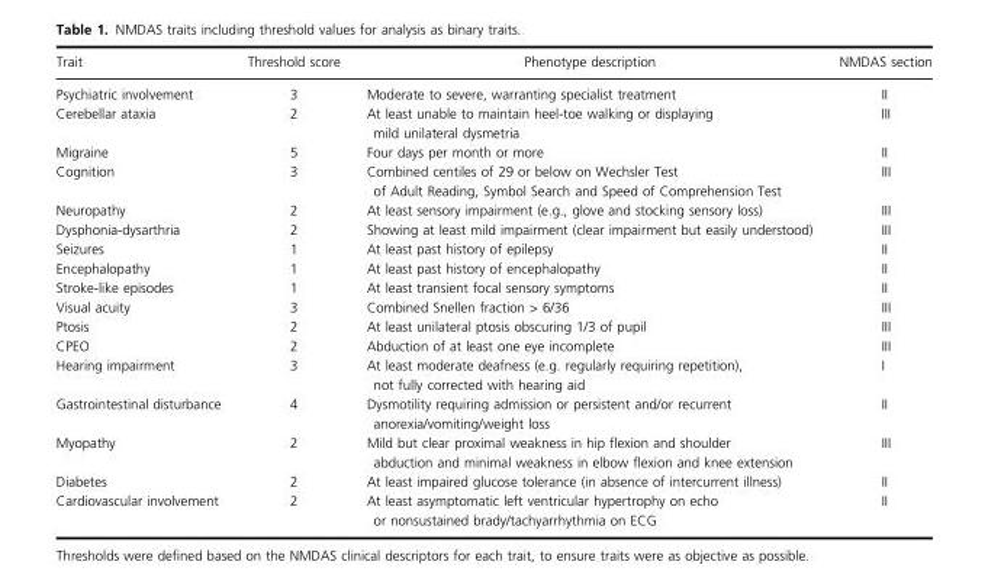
<table><thead><tr><td>Trait</td><td>Threshold score</td><td>Phenotype description</td><td>NMDAS section</td></tr></thead><tbody><tr><td>Psychiatric involvement</td><td>3</td><td>Moderate to severe, warranting specialist treatment</td><td>II</td></tr><tr><td>Cerebellar ataxia</td><td>2</td><td>At least unable to maintain heel-toe walking or displaying mild unilateral dysmetria</td><td>III</td></tr><tr><td>Migraine</td><td>5</td><td>Four days per month or more</td><td>II</td></tr><tr><td>Cognition</td><td>3</td><td>Combined centiles of 29 or below on Wechsler Test of Adult Reading, Symbol Search and Speed of Comprehension Test</td><td>III</td></tr><tr><td>Neuropathy</td><td>2</td><td>At least sensory impairment (e.g., glove and stocking sensory loss)</td><td>III</td></tr><tr><td>Dysphonia-dysarthria</td><td>2</td><td>Showing at least mild impairment (clear impairment but easily understood)</td><td>III</td></tr><tr><td>Seizures</td><td>1</td><td>At least past history of epilepsy</td><td>II</td></tr><tr><td>Encephalopathy</td><td>1</td><td>At least past history of encephalopathy</td><td>II</td></tr><tr><td>Stroke-like episodes</td><td>1</td><td>At least transient focal sensory symptoms</td><td>II</td></tr><tr><td>Visual acuity</td><td>3</td><td>Combined Snellen fraction &gt; 6/36</td><td>III</td></tr><tr><td>Ptosis</td><td>2</td><td>At least unilateral ptosis obscuring 1/3 of pupil</td><td>III</td></tr><tr><td>CPEO</td><td>2</td><td>Abduction of at least one eye incomplete</td><td>III</td></tr><tr><td>Hearing impairment</td><td>3</td><td>At least moderate deafness (e.g. regularly requiring repetition), not fully corrected with hearing aid</td><td>I</td></tr><tr><td>Gastrointestinal disturbance</td><td>4</td><td>Dysmotility requiring admission or persistent and/or recurrent anorexia/vomiting/weight loss</td><td>II</td></tr><tr><td>Myopathy</td><td>2</td><td>Mild but clear proximal weakness in hip flexion and shoulder abduction and minimal weakness in elbow flexion and knee extension</td><td>III</td></tr><tr><td>Diabetes</td><td>2</td><td>At least impaired glucose tolerance (in absence of intercurrent illness)</td><td>II</td></tr><tr><td>Cardiovascular involvement</td><td>2</td><td>At least asymptomatic left ventricular hypertrophy on echo or nonsustained brady/tachyarrhythmia on ECG</td><td>II</td></tr></tbody></table>